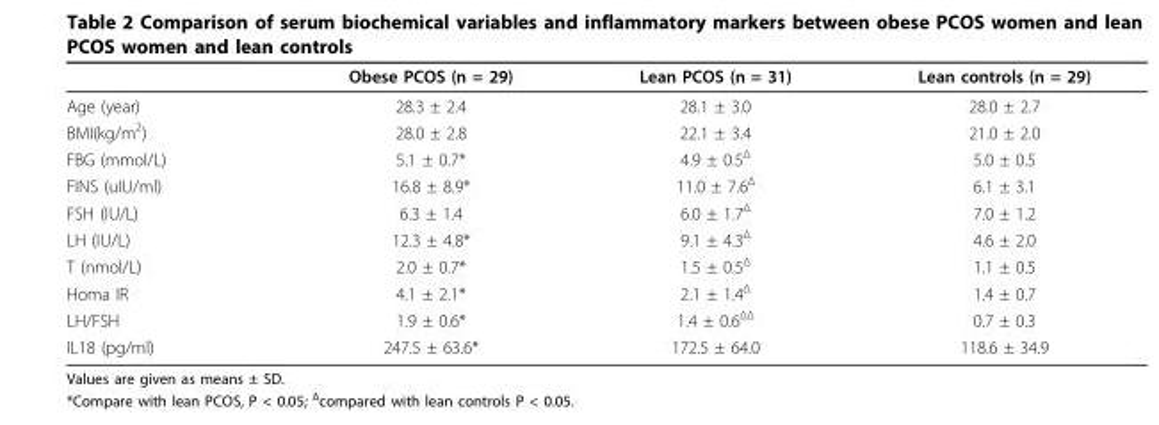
<table><thead><tr><td></td><td>Obese PCOS (n = 29)</td><td>Lean PCOS (n = 31)</td><td>Lean controls (n = 29)</td></tr></thead><tbody><tr><td>Age (year)</td><td>28.3 ± 2.4</td><td>28.1 ± 3.0</td><td>28.0 ± 2.7</td></tr><tr><td>BMI(kg/m<sup>2</sup>)</td><td>28.0 ± 2.8</td><td>22.1 ± 3.4</td><td>21.0 ± 2.0</td></tr><tr><td>FBG (mmol/L)</td><td>5.1 ± 0.7*</td><td>4.9 ± 0.5<sup>Δ</sup></td><td>5.0 ± 0.5</td></tr><tr><td>FINS (uIU/ml)</td><td>16.8 ± 8.9*</td><td>11.0 ± 7.6<sup>Δ</sup></td><td>6.1 ± 3.1</td></tr><tr><td>FSH (IU/L)</td><td>6.3 ± 1.4</td><td>6.0 ± 1.7<sup>Δ</sup></td><td>7.0 ± 1.2</td></tr><tr><td>LH (IU/L)</td><td>12.3 ± 4.8*</td><td>9.1 ± 4.3<sup>Δ</sup></td><td>4.6 ± 2.0</td></tr><tr><td>T (nmol/L)</td><td>2.0 ± 0.7*</td><td>1.5 ± 0.5<sup>Δ</sup></td><td>1.1 ± 0.5</td></tr><tr><td>Homa IR</td><td>4.1 ± 2.1*</td><td>2.1 ± 1.4<sup>Δ</sup></td><td>1.4 ± 0.7</td></tr><tr><td>LH/FSH</td><td>1.9 ± 0.6*</td><td>1.4 ± 0.6<sup>ΔΔ</sup></td><td>0.7 ± 0.3</td></tr><tr><td>IL18 (pg/ml)</td><td>247.5 ± 63.6*</td><td>172.5 ± 64.0</td><td>118.6 ± 34.9</td></tr></tbody></table>